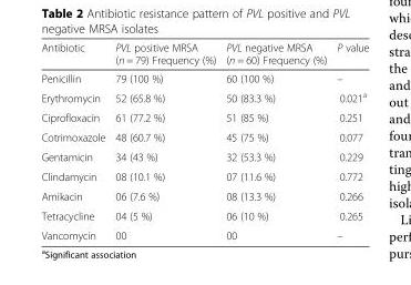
<table><thead><tr><td>Antibiotic</td><td>PVL positive MRSA (n = 79) Frequency (%)</td><td>PVL negative MRSA (n = 60) Frequency (%)</td><td>P value</td></tr></thead><tbody><tr><td>Penicillin</td><td>79 (100 %)</td><td>60 (100 %)</td><td>–</td></tr><tr><td>Erythromycin</td><td>52 (65.8 %)</td><td>50 (83.3 %)</td><td>0.021<sup>a</sup></td></tr><tr><td>Ciprofloxacin</td><td>61 (77.2 %)</td><td>51 (85 %)</td><td>0.251</td></tr><tr><td>Cotrimoxazole</td><td>48 (60.7 %)</td><td>45 (75 %)</td><td>0.077</td></tr><tr><td>Gentamicin</td><td>34 (43 %)</td><td>32 (53.3 %)</td><td>0.229</td></tr><tr><td>Clindamycin</td><td>08 (10.1 %)</td><td>07 (11.6 %)</td><td>0.772</td></tr><tr><td>Amikacin</td><td>06 (7.6 %)</td><td>08 (13.3 %)</td><td>0.266</td></tr><tr><td>Tetracycline</td><td>04 (5 %)</td><td>06 (10 %)</td><td>0.265</td></tr><tr><td>Vancomycin</td><td>00</td><td>00</td><td>–</td></tr></tbody></table>